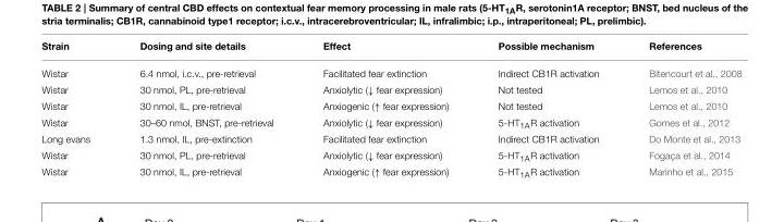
<table><thead><tr><td>Strain</td><td>Dosing and site details</td><td>Effect</td><td>Possible mechanism</td><td>References</td></tr></thead><tbody><tr><td>Wistar</td><td>6.4 nmol, i.c.v., pre-retrieval</td><td>Facilitated fear extinction</td><td>Indirect CB1R activation</td><td>Bitencourt et al., 2008</td></tr><tr><td>Wistar</td><td>30 nmol, PL, pre-retrieval</td><td>Anxiolytic (↓ fear expression)</td><td>Not tested</td><td>Lemos et al., 2010</td></tr><tr><td>Wistar</td><td>30 nmol, IL, pre-retrieval</td><td>Anxiogenic (↑ fear expression)</td><td>Not tested</td><td>Lemos et al., 2010</td></tr><tr><td>Wistar</td><td>30–60 nmol, BNST, pre-retrieval</td><td>Anxiolytic (↓ fear expression)</td><td>5-HT<sub>1A</sub>R activation</td><td>Gomes et al., 2012</td></tr><tr><td>Long evans</td><td>1.3 nmol, IL, pre-extinction</td><td>Facilitated fear extinction</td><td>Indirect CB1R activation</td><td>Do Monte et al., 2013</td></tr><tr><td>Wistar</td><td>30 nmol, PL, pre-retrieval</td><td>Anxiolytic (↓ fear expression)</td><td>5-HT<sub>1A</sub>R activation</td><td>Fogaça et al., 2014</td></tr><tr><td>Wistar</td><td>30 nmol, IL, pre-retrieval</td><td>Anxiogenic (↑ fear expression)</td><td>5-HT<sub>1A</sub>R activation</td><td>Marinho et al., 2015</td></tr></tbody></table>